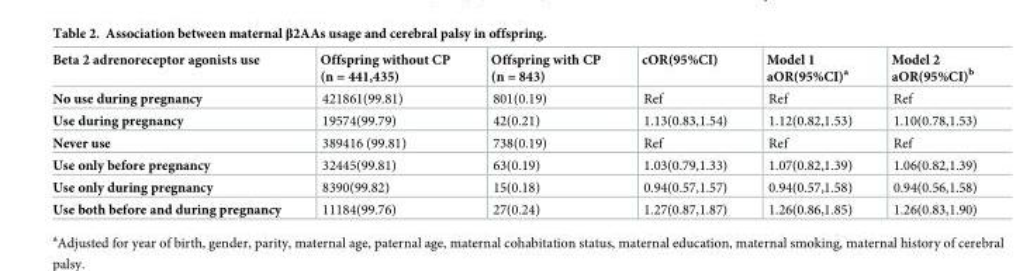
<table><thead><tr><td>Beta 2 adrenoreceptor agonists use</td><td>Offspring without CP (n = 441,435)</td><td>Offspring with CP (n = 843)</td><td>cOR(95%CI)</td><td>Model 1 aOR(95%CI)<sup>a</sup></td><td>Model 2 aOR(95%CI)<sup>b</sup></td></tr></thead><tbody><tr><td>No use during pregnancy</td><td>421861(99.81)</td><td>801(0.19)</td><td>Ref</td><td>Ref</td><td>Ref</td></tr><tr><td>Use during pregnancy</td><td>19574(99.79)</td><td>42(0.21)</td><td>1.13(0.83,1.54)</td><td>1.12(0.82,1.53)</td><td>1.10(0.78,1.53)</td></tr><tr><td>Never use</td><td>389416 (99.81)</td><td>738(0.19)</td><td>Ref</td><td>Ref</td><td>Ref</td></tr><tr><td>Use only before pregnancy</td><td>32445(99.81)</td><td>63(0.19)</td><td>1.03(0.79,1.33)</td><td>1.07(0.82,1.39)</td><td>1.06(0.82,1.39)</td></tr><tr><td>Use only during pregnancy</td><td>8390(99.82)</td><td>15(0.18)</td><td>0.94(0.57,1.57)</td><td>0.94(0.57,1.58)</td><td>0.94(0.56,1.58)</td></tr><tr><td>Use both before and during pregnancy</td><td>11184(99.76)</td><td>27(0.24)</td><td>1.27(0.87,1.87)</td><td>1.26(0.86,1.85)</td><td>1.26(0.83,1.90)</td></tr></tbody></table>